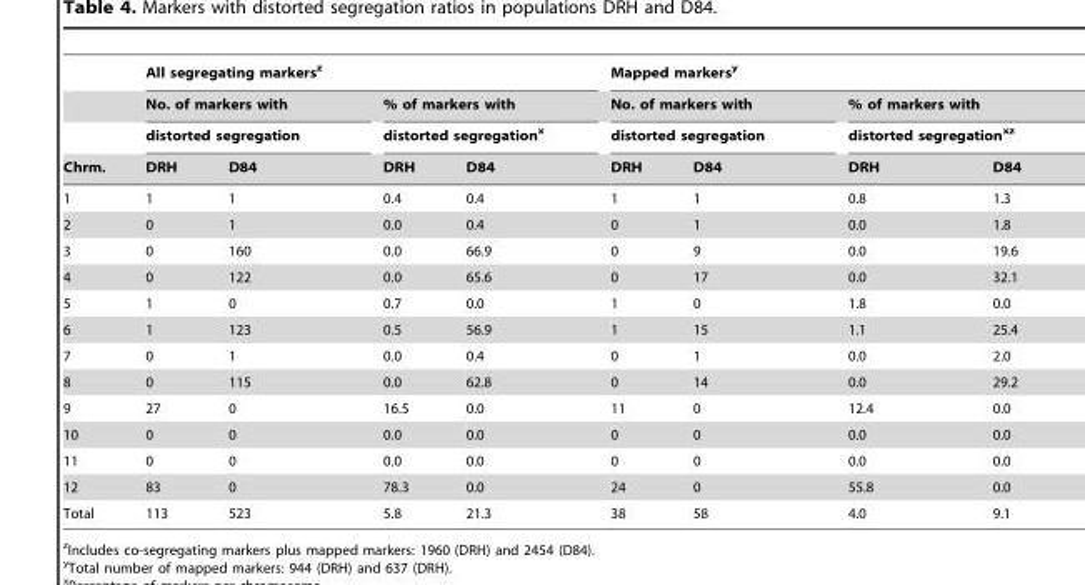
<table><thead><tr><td rowspan="4">Chrm.</td><td colspan="4">All segregating markers<sup>z</sup></td><td colspan="4">Mapped markers<sup>y</sup></td></tr><tr><td rowspan="2" colspan="2">No. of markers with distorted segregation</td><td rowspan="2" colspan="2">% of markers with distorted segregation<sup>x</sup></td><td rowspan="2" colspan="2">No. of markers with distorted segregation</td><td rowspan="2" colspan="2">% of markers with distorted segregation<sup>xz</sup></td></tr><tr></tr><tr><td>DRH</td><td>D84</td><td>DRH</td><td>D84</td><td>DRH</td><td>D84</td><td>DRH</td><td>D84</td></tr></thead><tbody><tr><td>1</td><td>1</td><td>1</td><td>0.4</td><td>0.4</td><td>1</td><td>1</td><td>0.8</td><td>1.3</td></tr><tr><td>2</td><td>0</td><td>1</td><td>0.0</td><td>0.4</td><td>0</td><td>1</td><td>0.0</td><td>1.8</td></tr><tr><td>3</td><td>0</td><td>160</td><td>0.0</td><td>66.9</td><td>0</td><td>9</td><td>0.0</td><td>19.6</td></tr><tr><td>4</td><td>0</td><td>122</td><td>0.0</td><td>65.6</td><td>0</td><td>17</td><td>0.0</td><td>32.1</td></tr><tr><td>5</td><td>1</td><td>0</td><td>0.7</td><td>0.0</td><td>1</td><td>0</td><td>1.8</td><td>0.0</td></tr><tr><td>6</td><td>1</td><td>123</td><td>0.5</td><td>56.9</td><td>1</td><td>15</td><td>1.1</td><td>25.4</td></tr><tr><td>7</td><td>0</td><td>1</td><td>0.0</td><td>0.4</td><td>0</td><td>1</td><td>0.0</td><td>2.0</td></tr><tr><td>8</td><td>0</td><td>115</td><td>0.0</td><td>62.8</td><td>0</td><td>14</td><td>0.0</td><td>29.2</td></tr><tr><td>9</td><td>27</td><td>0</td><td>16.5</td><td>0.0</td><td>11</td><td>0</td><td>12.4</td><td>0.0</td></tr><tr><td>10</td><td>0</td><td>0</td><td>0.0</td><td>0.0</td><td>0</td><td>0</td><td>0.0</td><td>0.0</td></tr><tr><td>11</td><td>0</td><td>0</td><td>0.0</td><td>0.0</td><td>0</td><td>0</td><td>0.0</td><td>0.0</td></tr><tr><td>12</td><td>83</td><td>0</td><td>78.3</td><td>0.0</td><td>24</td><td>0</td><td>55.8</td><td>0.0</td></tr><tr><td>Total</td><td>113</td><td>523</td><td>5.8</td><td>21.3</td><td>38</td><td>58</td><td>4.0</td><td>9.1</td></tr></tbody></table>